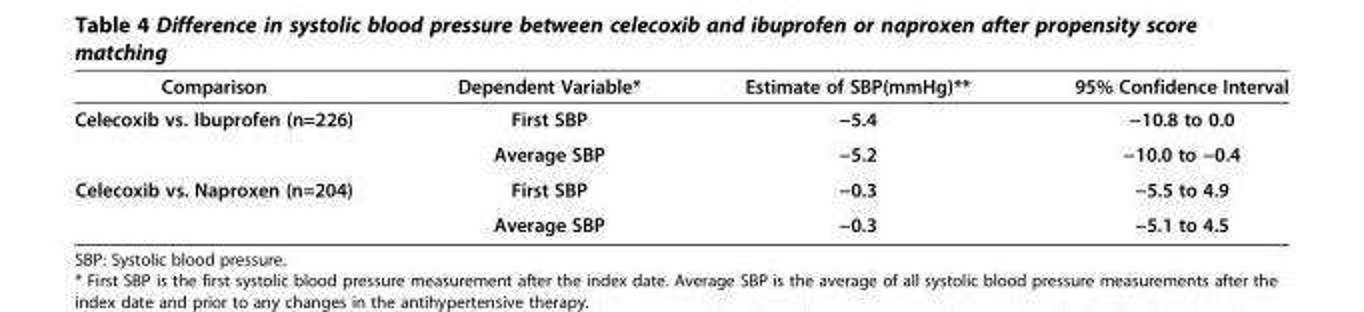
<table><thead><tr><td>Comparison</td><td>Dependent Variable*</td><td>Estimate of SBP(mmHg)**</td><td>95% Confidence Interval</td></tr></thead><tbody><tr><td rowspan="2">Celecoxib vs. Ibuprofen (n=226)</td><td>First SBP</td><td>−5.4</td><td>−10.8 to 0.0</td></tr><tr><td>Average SBP</td><td>−5.2</td><td>−10.0 to −0.4</td></tr><tr><td rowspan="2">Celecoxib vs. Naproxen (n=204)</td><td>First SBP</td><td>−0.3</td><td>−5.5 to 4.9</td></tr><tr><td>Average SBP</td><td>−0.3</td><td>−5.1 to 4.5</td></tr></tbody></table>